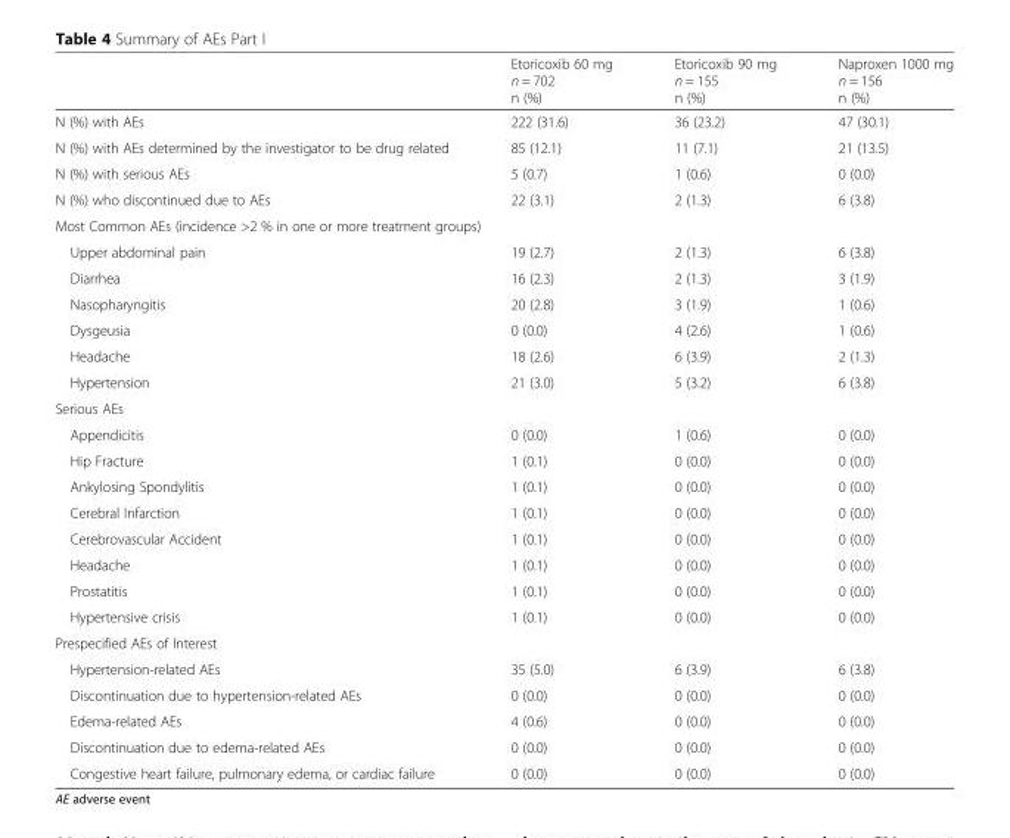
<table><thead><tr><td></td><td>Etoricoxib 60 mg n = 702 n (%)</td><td>Etoricoxib 90 mg n = 155 n (%)</td><td>Naproxen 1000 mg n = 156 n (%)</td></tr></thead><tbody><tr><td>N (%) with AEs</td><td>222 (31.6)</td><td>36 (23.2)</td><td>47 (30.1)</td></tr><tr><td>N (%) with AEs determined by the investigator to be drug related</td><td>85 (12.1)</td><td>11 (7.1)</td><td>21 (13.5)</td></tr><tr><td>N (%) with serious AEs</td><td>5 (0.7)</td><td>1 (0.6)</td><td>0 (0.0)</td></tr><tr><td>N (%) who discontinued due to AEs</td><td>22 (3.1)</td><td>2 (1.3)</td><td>6 (3.8)</td></tr><tr><td colspan="4">Most Common AEs (incidence &gt;2 % in one or more treatment groups)</td></tr><tr><td>Upper abdominal pain</td><td>19 (2.7)</td><td>2 (1.3)</td><td>6 (3.8)</td></tr><tr><td>Diarrhea</td><td>16 (2.3)</td><td>2 (1.3)</td><td>3 (1.9)</td></tr><tr><td>Nasopharyngitis</td><td>20 (2.8)</td><td>3 (1.9)</td><td>1 (0.6)</td></tr><tr><td>Dysgeusia</td><td>0 (0.0)</td><td>4 (2.6)</td><td>1 (0.6)</td></tr><tr><td>Headache</td><td>18 (2.6)</td><td>6 (3.9)</td><td>2 (1.3)</td></tr><tr><td>Hypertension</td><td>21 (3.0)</td><td>5 (3.2)</td><td>6 (3.8)</td></tr><tr><td colspan="4">Serious AEs</td></tr><tr><td>Appendicitis</td><td>0 (0.0)</td><td>1 (0.6)</td><td>0 (0.0)</td></tr><tr><td>Hip Fracture</td><td>1 (0.1)</td><td>0 (0.0)</td><td>0 (0.0)</td></tr><tr><td>Ankylosing Spondylitis</td><td>1 (0.1)</td><td>0 (0.0)</td><td>0 (0.0)</td></tr><tr><td>Cerebral Infarction</td><td>1 (0.1)</td><td>0 (0.0)</td><td>0 (0.0)</td></tr><tr><td>Cerebrovascular Accident</td><td>1 (0.1)</td><td>0 (0.0)</td><td>0 (0.0)</td></tr><tr><td>Headache</td><td>1 (0.1)</td><td>0 (0.0)</td><td>0 (0.0)</td></tr><tr><td>Prostatitis</td><td>1 (0.1)</td><td>0 (0.0)</td><td>0 (0.0)</td></tr><tr><td>Hypertensive crisis</td><td>1 (0.1)</td><td>0 (0.0)</td><td>0 (0.0)</td></tr><tr><td colspan="4">Prespecified AEs of Interest</td></tr><tr><td>Hypertension-related AEs</td><td>35 (5.0)</td><td>6 (3.9)</td><td>6 (3.8)</td></tr><tr><td>Discontinuation due to hypertension-related AEs</td><td>0 (0.0)</td><td>0 (0.0)</td><td>0 (0.0)</td></tr><tr><td>Edema-related AEs</td><td>4 (0.6)</td><td>0 (0.0)</td><td>0 (0.0)</td></tr><tr><td>Discontinuation due to edema-related AEs</td><td>0 (0.0)</td><td>0 (0.0)</td><td>0 (0.0)</td></tr><tr><td>Congestive heart failure, pulmonary edema, or cardiac failure</td><td>0 (0.0)</td><td>0 (0.0)</td><td>0 (0.0)</td></tr></tbody></table>